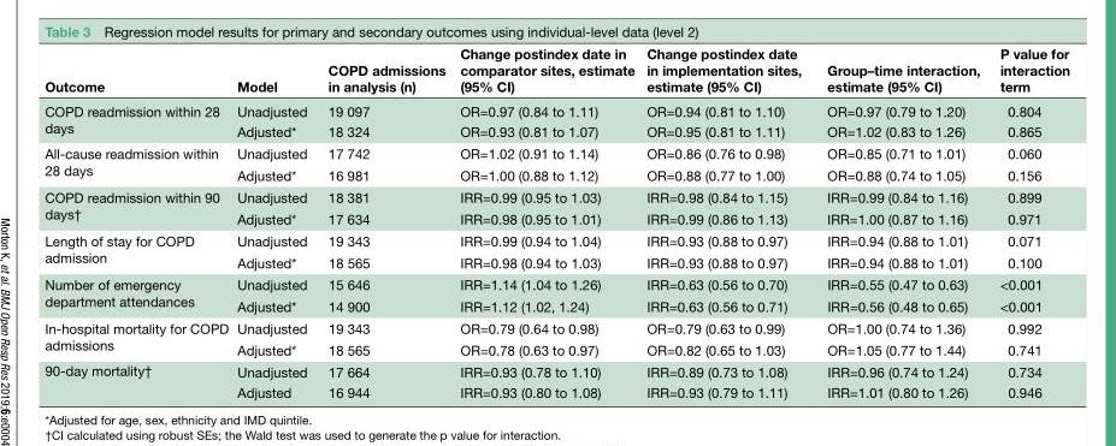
<table><thead><tr><td>Outcome</td><td>Model</td><td>COPD admissions in analysis (n)</td><td>Change postindex date in comparator sites, estimate (95% CI)</td><td>Change postindex date in implementation sites, estimate (95% CI)</td><td>Group–time interaction, estimate (95% CI)</td><td>P value for interaction term</td></tr></thead><tbody><tr><td rowspan="2">COPD readmission within 28 days</td><td>Unadjusted</td><td>19 097</td><td>OR=0.97 (0.84 to 1.11)</td><td>OR=0.94 (0.81 to 1.10)</td><td>OR=0.97 (0.79 to 1.20)</td><td>0.804</td></tr><tr><td>Adjusted*</td><td>18 324</td><td>OR=0.93 (0.81 to 1.07)</td><td>OR=0.95 (0.81 to 1.11)</td><td>OR=1.02 (0.83 to 1.26)</td><td>0.865</td></tr><tr><td rowspan="2">All-cause readmission within 28 days</td><td>Unadjusted</td><td>17 742</td><td>OR=1.02 (0.91 to 1.14)</td><td>OR=0.86 (0.76 to 0.98)</td><td>OR=0.85 (0.71 to 1.01)</td><td>0.060</td></tr><tr><td>Adjusted*</td><td>16 981</td><td>OR=1.00 (0.88 to 1.12)</td><td>OR=0.88 (0.77 to 1.00)</td><td>OR=0.88 (0.74 to 1.05)</td><td>0.156</td></tr><tr><td rowspan="2">COPD readmission within 90 days†</td><td>Unadjusted</td><td>18 381</td><td>IRR=0.99 (0.95 to 1.03)</td><td>IRR=0.98 (0.84 to 1.15)</td><td>IRR=0.99 (0.84 to 1.16)</td><td>0.899</td></tr><tr><td>Adjusted*</td><td>17 634</td><td>IRR=0.98 (0.95 to 1.01)</td><td>IRR=0.99 (0.86 to 1.13)</td><td>IRR=1.00 (0.87 to 1.16)</td><td>0.971</td></tr><tr><td rowspan="2">Length of stay for COPD admission</td><td>Unadjusted</td><td>19 343</td><td>IRR=0.99 (0.94 to 1.04)</td><td>IRR=0.93 (0.88 to 0.97)</td><td>IRR=0.94 (0.88 to 1.01)</td><td>0.071</td></tr><tr><td>Adjusted*</td><td>18 565</td><td>IRR=0.98 (0.94 to 1.03)</td><td>IRR=0.93 (0.88 to 0.97)</td><td>IRR=0.94 (0.88 to 1.01)</td><td>0.100</td></tr><tr><td rowspan="2">Number of emergency department attendances</td><td>Unadjusted</td><td>15 646</td><td>IRR=1.14 (1.04 to 1.26)</td><td>IRR=0.63 (0.56 to 0.70)</td><td>IRR=0.55 (0.47 to 0.63)</td><td>&lt;0.001</td></tr><tr><td>Adjusted*</td><td>14 900</td><td>IRR=1.12 (1.02, 1.24)</td><td>IRR=0.63 (0.56 to 0.71)</td><td>IRR=0.56 (0.48 to 0.65)</td><td>&lt;0.001</td></tr><tr><td rowspan="2">In-hospital mortality for COPD admissions</td><td>Unadjusted</td><td>19 343</td><td>OR=0.79 (0.64 to 0.98)</td><td>OR=0.79 (0.63 to 0.99)</td><td>OR=1.00 (0.74 to 1.36)</td><td>0.992</td></tr><tr><td>Adjusted*</td><td>18 565</td><td>OR=0.78 (0.63 to 0.97)</td><td>OR=0.82 (0.65 to 1.03)</td><td>OR=1.05 (0.77 to 1.44)</td><td>0.741</td></tr><tr><td rowspan="2">90-day mortality†</td><td>Unadjusted</td><td>17 664</td><td>IRR=0.93 (0.78 to 1.10)</td><td>IRR=0.89 (0.73 to 1.08)</td><td>IRR=0.96 (0.74 to 1.24)</td><td>0.734</td></tr><tr><td>Adjusted</td><td>16 944</td><td>IRR=0.93 (0.80 to 1.08)</td><td>IRR=0.93 (0.79 to 1.11)</td><td>IRR=1.01 (0.80 to 1.26)</td><td>0.946</td></tr></tbody></table>